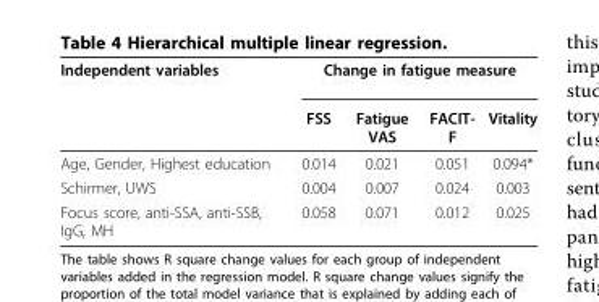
<table><thead><tr><td rowspan="2">Independent variables</td><td colspan="4">Change in fatigue measure</td></tr><tr><td>FSS</td><td>Fatigue VAS</td><td>FACIT- F</td><td>Vitality</td></tr></thead><tbody><tr><td>Age, Gender, Highest education</td><td>0.014</td><td>0.021</td><td>0.051</td><td>0.094*</td></tr><tr><td>Schirmer, UWS</td><td>0.004</td><td>0.007</td><td>0.024</td><td>0.003</td></tr><tr><td>Focus score, anti-SSA, anti-SSB, IgG, MH</td><td>0.058</td><td>0.071</td><td>0.012</td><td>0.025</td></tr></tbody></table>